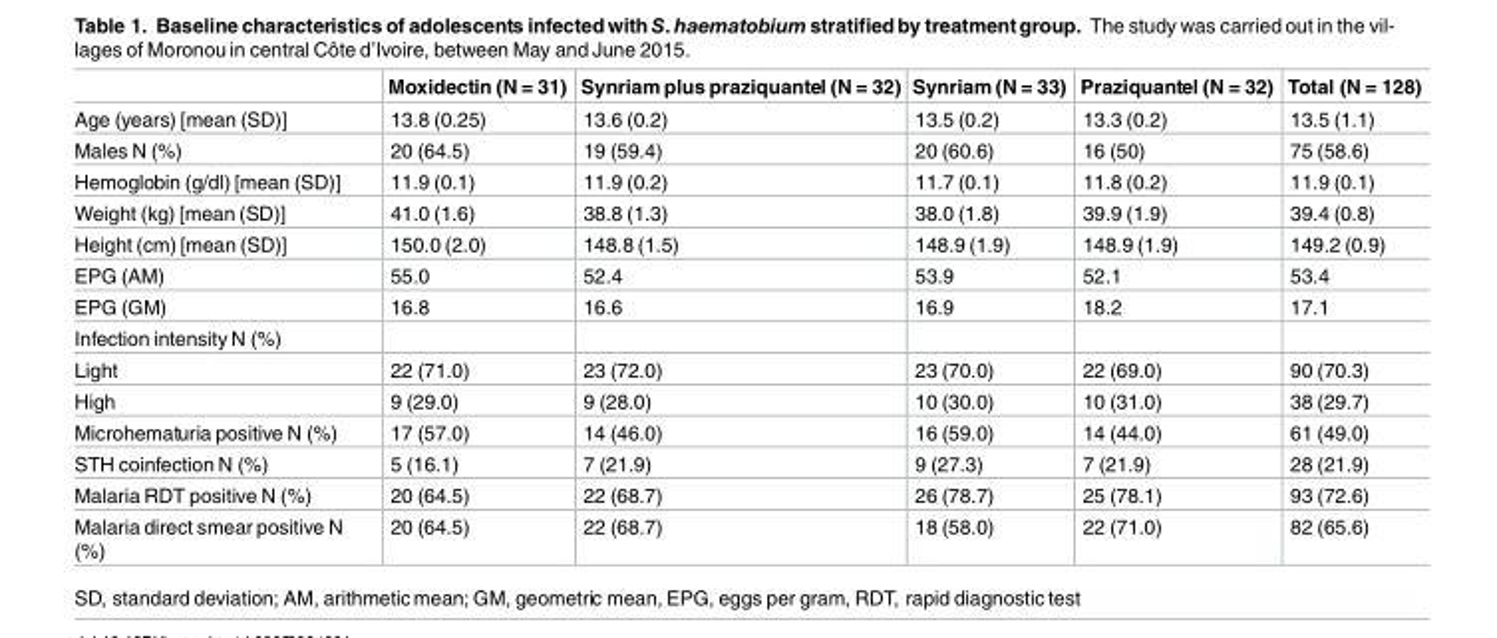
<table><thead><tr><td></td><td>Moxidectin (N = 31)</td><td>Synriam plus praziquantel (N = 32)</td><td>Synriam (N = 33)</td><td>Praziquantel (N = 32)</td><td>Total (N = 128)</td></tr></thead><tbody><tr><td>Age (years) [mean (SD)]</td><td>13.8 (0.25)</td><td>13.6 (0.2)</td><td>13.5 (0.2)</td><td>13.3 (0.2)</td><td>13.5 (1.1)</td></tr><tr><td>Males N (%)</td><td>20 (64.5)</td><td>19 (59.4)</td><td>20 (60.6)</td><td>16 (50)</td><td>75 (58.6)</td></tr><tr><td>Hemoglobin (g/dl) [mean (SD)]</td><td>11.9 (0.1)</td><td>11.9 (0.2)</td><td>11.7 (0.1)</td><td>11.8 (0.2)</td><td>11.9 (0.1)</td></tr><tr><td>Weight (kg) [mean (SD)]</td><td>41.0 (1.6)</td><td>38.8 (1.3)</td><td>38.0 (1.8)</td><td>39.9 (1.9)</td><td>39.4 (0.8)</td></tr><tr><td>Height (cm) [mean (SD)]</td><td>150.0 (2.0)</td><td>148.8 (1.5)</td><td>148.9 (1.9)</td><td>148.9 (1.9)</td><td>149.2 (0.9)</td></tr><tr><td>EPG (AM)</td><td>55.0</td><td>52.4</td><td>53.9</td><td>52.1</td><td>53.4</td></tr><tr><td>EPG (GM)</td><td>16.8</td><td>16.6</td><td>16.9</td><td>18.2</td><td>17.1</td></tr><tr><td colspan="6">Infection intensity N (%)</td></tr><tr><td>Light</td><td>22 (71.0)</td><td>23 (72.0)</td><td>23 (70.0)</td><td>22 (69.0)</td><td>90 (70.3)</td></tr><tr><td>High</td><td>9 (29.0)</td><td>9 (28.0)</td><td>10 (30.0)</td><td>10 (31.0)</td><td>38 (29.7)</td></tr><tr><td>Microhematuria positive N (%)</td><td>17 (57.0)</td><td>14 (46.0)</td><td>16 (59.0)</td><td>14 (44.0)</td><td>61 (49.0)</td></tr><tr><td>STH coinfection N (%)</td><td>5 (16.1)</td><td>7 (21.9)</td><td>9 (27.3)</td><td>7 (21.9)</td><td>28 (21.9)</td></tr><tr><td>Malaria RDT positive N (%)</td><td>20 (64.5)</td><td>22 (68.7)</td><td>26 (78.7)</td><td>25 (78.1)</td><td>93 (72.6)</td></tr><tr><td>Malaria direct smear positive N (%)</td><td>20 (64.5)</td><td>22 (68.7)</td><td>18 (58.0)</td><td>22 (71.0)</td><td>82 (65.6)</td></tr></tbody></table>